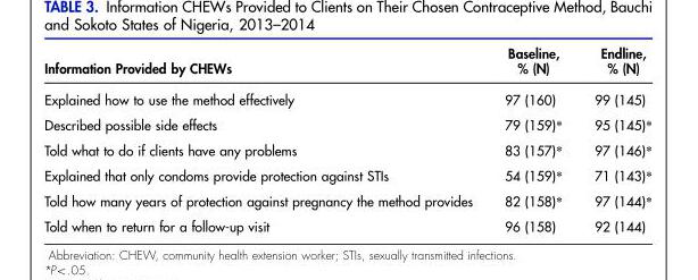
<table><thead><tr><td>Information Provided by CHEWs</td><td>Baseline, % (N)</td><td>Endline, % (N)</td></tr></thead><tbody><tr><td>Explained how to use the method effectively</td><td>97 (160)</td><td>99 (145)</td></tr><tr><td>Described possible side effects</td><td>79 (159)*</td><td>95 (145)*</td></tr><tr><td>Told what to do if clients have any problems</td><td>83 (157)*</td><td>97 (146)*</td></tr><tr><td>Explained that only condoms provide protection against STIs</td><td>54 (159)*</td><td>71 (143)*</td></tr><tr><td>Told how many years of protection against pregnancy the method provides</td><td>82 (158)*</td><td>97 (144)*</td></tr><tr><td>Told when to return for a follow-up visit</td><td>96 (158)</td><td>92 (144)</td></tr></tbody></table>